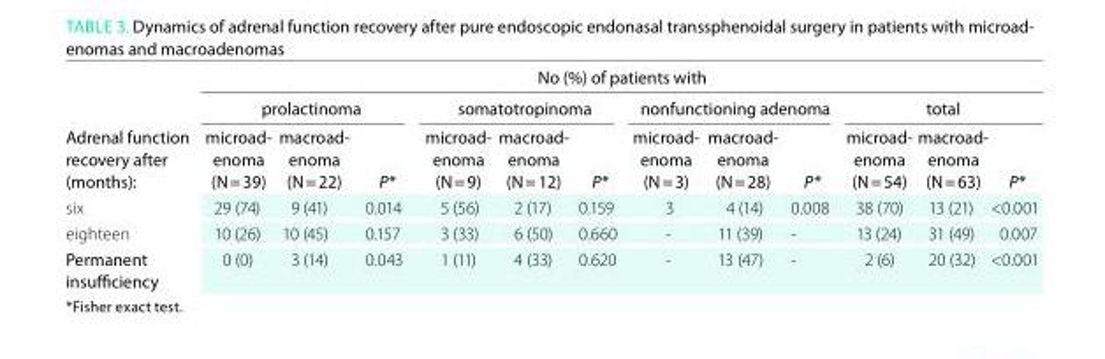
<table><thead><tr><td rowspan="3">Adrenal function recovery after (months):</td><td colspan="12">no (%) of patients with</td></tr><tr><td colspan="3">prolactinoma</td><td colspan="3">somatotropinoma</td><td colspan="3">nonfunctioning adenoma</td><td colspan="3">total</td></tr><tr><td>microad- enoma (n = 39)</td><td>macroad- enoma (n = 22)</td><td>P*</td><td>microad- enoma (n = 9)</td><td>macroad- enoma (n = 12)</td><td>P*</td><td>microad- enoma (n = 3)</td><td>macroad- enoma (n = 28)</td><td>P*</td><td>microad- enoma (n = 54)</td><td>macroad- enoma (n = 63)</td><td>P*</td></tr></thead><tbody><tr><td>six</td><td>29 (74)</td><td>9 (41)</td><td>0.014</td><td>5 (56)</td><td>2 (17)</td><td>0.159</td><td>3</td><td>4 (14)</td><td>0.008</td><td>38 (70)</td><td>13 (21)</td><td>&lt;0.001</td></tr><tr><td>eighteen</td><td>10 (26)</td><td>10 (45)</td><td>0.157</td><td>3 (33)</td><td>6 (50)</td><td>0.660</td><td>-</td><td>11 (39)</td><td>-</td><td>13 (24)</td><td>31 (49)</td><td>0.007</td></tr><tr><td>Permanent insufficiency</td><td>0 (0)</td><td>3 (14)</td><td>0.043</td><td>1 (11)</td><td>4 (33)</td><td>0.620</td><td>-</td><td>13 (47)</td><td>-</td><td>2 (6)</td><td>20 (32)</td><td>&lt;0.001</td></tr></tbody></table>